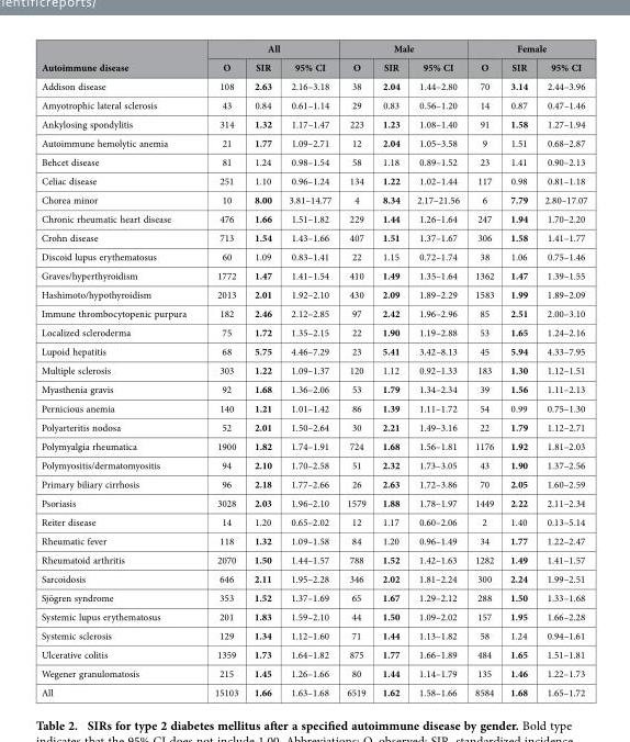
<table><thead><tr><td rowspan="2">Autoimmune disease</td><td colspan="3">All</td><td colspan="3">Male</td><td colspan="3">Female</td></tr><tr><td>O</td><td>SIR</td><td>95% CI</td><td>O</td><td>SIR</td><td>95% CI</td><td>O</td><td>SIR</td><td>95% CI</td></tr></thead><tbody><tr><td>Addison disease</td><td>108</td><td>2.63</td><td>2.16–3.18</td><td>38</td><td>2.04</td><td>1.44–2.80</td><td>70</td><td>3.14</td><td>2.44–3.96</td></tr><tr><td>Amyotrophic lateral sclerosis</td><td>43</td><td>0.84</td><td>0.61–1.14</td><td>29</td><td>0.83</td><td>0.56–1.20</td><td>14</td><td>0.87</td><td>0.47–1.46</td></tr><tr><td>Ankylosing spondylitis</td><td>314</td><td>1.32</td><td>1.17–1.47</td><td>223</td><td>1.23</td><td>1.08–1.40</td><td>91</td><td>1.58</td><td>1.27–1.94</td></tr><tr><td>Autoimmune hemolytic anemia</td><td>21</td><td>1.77</td><td>1.09–2.71</td><td>12</td><td>2.04</td><td>1.05–3.58</td><td>9</td><td>1.51</td><td>0.68–2.87</td></tr><tr><td>Behcet disease</td><td>81</td><td>1.24</td><td>0.98–1.54</td><td>58</td><td>1.18</td><td>0.89–1.52</td><td>23</td><td>1.41</td><td>0.90–2.13</td></tr><tr><td>Celiac disease</td><td>251</td><td>1.10</td><td>0.96–1.24</td><td>134</td><td>1.22</td><td>1.02–1.44</td><td>117</td><td>0.98</td><td>0.81–1.18</td></tr><tr><td>Chorea minor</td><td>10</td><td>8.00</td><td>3.81–14.77</td><td>4</td><td>8.34</td><td>2.17–21.56</td><td>6</td><td>7.79</td><td>2.80–17.07</td></tr><tr><td>Chronic rheumatic heart disease</td><td>476</td><td>1.66</td><td>1.51–1.82</td><td>229</td><td>1.44</td><td>1.26–1.64</td><td>247</td><td>1.94</td><td>1.70–2.20</td></tr><tr><td>Crohn disease</td><td>713</td><td>1.54</td><td>1.43–1.66</td><td>407</td><td>1.51</td><td>1.37–1.67</td><td>306</td><td>1.58</td><td>1.41–1.77</td></tr><tr><td>Discoid lupus erythematosus</td><td>60</td><td>1.09</td><td>0.83–1.41</td><td>22</td><td>1.15</td><td>0.72–1.74</td><td>38</td><td>1.06</td><td>0.75–1.46</td></tr><tr><td>Graves/hyperthyroidism</td><td>1772</td><td>1.47</td><td>1.41–1.54</td><td>410</td><td>1.49</td><td>1.35–1.64</td><td>1362</td><td>1.47</td><td>1.39–1.55</td></tr><tr><td>Hashimoto/hypothyroidism</td><td>2013</td><td>2.01</td><td>1.92–2.10</td><td>430</td><td>2.09</td><td>1.89–2.29</td><td>1583</td><td>1.99</td><td>1.89–2.09</td></tr><tr><td>Immune thrombocytopenic purpura</td><td>182</td><td>2.46</td><td>2.12–2.85</td><td>97</td><td>2.42</td><td>1.96–2.96</td><td>85</td><td>2.51</td><td>2.00–3.10</td></tr><tr><td>Localized scleroderma</td><td>75</td><td>1.72</td><td>1.35–2.15</td><td>22</td><td>1.90</td><td>1.19–2.88</td><td>53</td><td>1.65</td><td>1.24–2.16</td></tr><tr><td>Lupoid hepatitis</td><td>68</td><td>5.75</td><td>4.46–7.29</td><td>23</td><td>5.41</td><td>3.42–8.13</td><td>45</td><td>5.94</td><td>4.33–7.95</td></tr><tr><td>Multiple sclerosis</td><td>303</td><td>1.22</td><td>1.09–1.37</td><td>120</td><td>1.12</td><td>0.92–1.33</td><td>183</td><td>1.30</td><td>1.12–1.51</td></tr><tr><td>Myasthenia gravis</td><td>92</td><td>1.68</td><td>1.36–2.06</td><td>53</td><td>1.79</td><td>1.34–2.34</td><td>39</td><td>1.56</td><td>1.11–2.13</td></tr><tr><td>Pernicious anemia</td><td>140</td><td>1.21</td><td>1.01–1.42</td><td>86</td><td>1.39</td><td>1.11–1.72</td><td>54</td><td>0.99</td><td>0.75–1.30</td></tr><tr><td>Polyarteritis nodosa</td><td>52</td><td>2.01</td><td>1.50–2.64</td><td>30</td><td>2.21</td><td>1.49–3.16</td><td>22</td><td>1.79</td><td>1.12–2.71</td></tr><tr><td>Polymyalgia rheumatica</td><td>1900</td><td>1.82</td><td>1.74–1.91</td><td>724</td><td>1.68</td><td>1.56–1.81</td><td>1176</td><td>1.92</td><td>1.81–2.03</td></tr><tr><td>Polymyositis/dermatomyositis</td><td>94</td><td>2.10</td><td>1.70–2.58</td><td>51</td><td>2.32</td><td>1.73–3.05</td><td>43</td><td>1.90</td><td>1.37–2.56</td></tr><tr><td>Primary biliary cirrhosis</td><td>96</td><td>2.18</td><td>1.77–2.66</td><td>26</td><td>2.63</td><td>1.72–3.86</td><td>70</td><td>2.05</td><td>1.60–2.59</td></tr><tr><td>Psoriasis</td><td>3028</td><td>2.03</td><td>1.96–2.10</td><td>1579</td><td>1.88</td><td>1.78–1.97</td><td>1449</td><td>2.22</td><td>2.11–2.34</td></tr><tr><td>Reiter disease</td><td>14</td><td>1.20</td><td>0.65–2.02</td><td>12</td><td>1.17</td><td>0.60–2.06</td><td>2</td><td>1.40</td><td>0.13–5.14</td></tr><tr><td>Rheumatic fever</td><td>118</td><td>1.32</td><td>1.09–1.58</td><td>84</td><td>1.20</td><td>0.96–1.49</td><td>34</td><td>1.77</td><td>1.22–2.47</td></tr><tr><td>Rheumatoid arthritis</td><td>2070</td><td>1.50</td><td>1.44–1.57</td><td>788</td><td>1.52</td><td>1.42–1.63</td><td>1282</td><td>1.49</td><td>1.41–1.57</td></tr><tr><td>Sarcoidosis</td><td>646</td><td>2.11</td><td>1.95–2.28</td><td>346</td><td>2.02</td><td>1.81–2.24</td><td>300</td><td>2.24</td><td>1.99–2.51</td></tr><tr><td>Sjögren syndrome</td><td>353</td><td>1.52</td><td>1.37–1.69</td><td>65</td><td>1.67</td><td>1.29–2.12</td><td>288</td><td>1.50</td><td>1.33–1.68</td></tr><tr><td>Systemic lupus erythematosus</td><td>201</td><td>1.83</td><td>1.59–2.10</td><td>44</td><td>1.50</td><td>1.09–2.02</td><td>157</td><td>1.95</td><td>1.66–2.28</td></tr><tr><td>Systemic sclerosis</td><td>129</td><td>1.34</td><td>1.12–1.60</td><td>71</td><td>1.44</td><td>1.13–1.82</td><td>58</td><td>1.24</td><td>0.94–1.61</td></tr><tr><td>Ulcerative colitis</td><td>1359</td><td>1.73</td><td>1.64–1.82</td><td>875</td><td>1.77</td><td>1.66–1.89</td><td>484</td><td>1.65</td><td>1.51–1.81</td></tr><tr><td>Wegener granulomatosis</td><td>215</td><td>1.45</td><td>1.26–1.66</td><td>80</td><td>1.44</td><td>1.14–1.79</td><td>135</td><td>1.46</td><td>1.22–1.73</td></tr><tr><td>All</td><td>15103</td><td>1.66</td><td>1.63–1.68</td><td>6519</td><td>1.62</td><td>1.58–1.66</td><td>8584</td><td>1.68</td><td>1.65–1.72</td></tr></tbody></table>